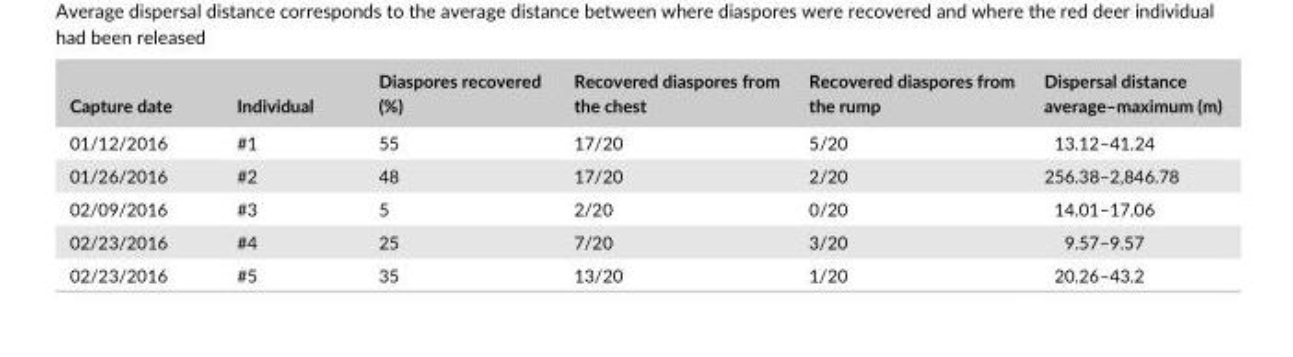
<table><thead><tr><td>Capture date</td><td>Individual</td><td>Diaspores recovered (%)</td><td>Recovered diaspores from the chest</td><td>Recovered diaspores from the rump</td><td>Dispersal distance average–maximum (m)</td></tr></thead><tbody><tr><td>01/12/2016</td><td>#1</td><td>55</td><td>17/20</td><td>5/20</td><td>13.12–41.24</td></tr><tr><td>01/26/2016</td><td>#2</td><td>48</td><td>17/20</td><td>2/20</td><td>256.38–2,846.78</td></tr><tr><td>02/09/2016</td><td>#3</td><td>5</td><td>2/20</td><td>0/20</td><td>14.01–17.06</td></tr><tr><td>02/23/2016</td><td>#4</td><td>25</td><td>7/20</td><td>3/20</td><td>9.57–9.57</td></tr><tr><td>02/23/2016</td><td>#5</td><td>35</td><td>13/20</td><td>1/20</td><td>20.26–43.2</td></tr></tbody></table>